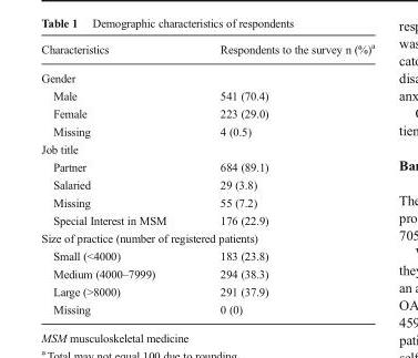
<table><thead><tr><td>Characteristics</td><td>Respondents to the survey n (%)<sup>a</sup></td></tr></thead><tbody><tr><td colspan="2">Gender</td></tr><tr><td>Male</td><td>541 (70.4)</td></tr><tr><td>Female</td><td>223 (29.0)</td></tr><tr><td>Missing</td><td>4 (0.5)</td></tr><tr><td colspan="2">Job title</td></tr><tr><td>Partner</td><td>684 (89.1)</td></tr><tr><td>Salaried</td><td>29 (3.8)</td></tr><tr><td>Missing</td><td>55 (7.2)</td></tr><tr><td>Special Interest in MSM</td><td>176 (22.9)</td></tr><tr><td colspan="2">Size of practice (number of registered patients)</td></tr><tr><td>Small (&lt;4000)</td><td>183 (23.8)</td></tr><tr><td>Medium (4000–7999)</td><td>294 (38.3)</td></tr><tr><td>Large (&gt;8000)</td><td>291 (37.9)</td></tr><tr><td>Missing</td><td>0 (0)</td></tr></tbody></table>